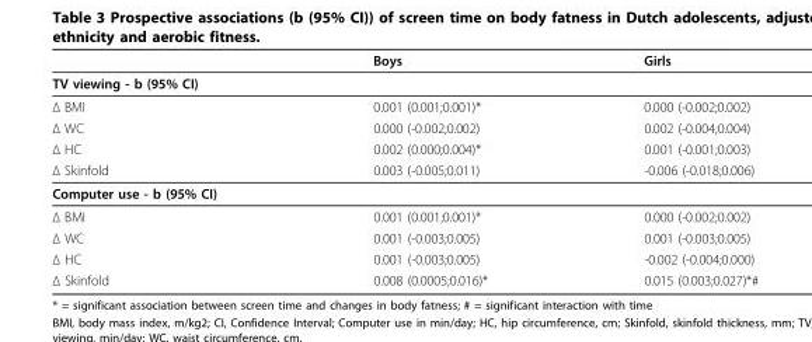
<table><thead><tr><td></td><td>Boys</td><td>Girls</td></tr></thead><tbody><tr><td colspan="3">TV viewing - b (95% CI)</td></tr><tr><td>Δ BMI</td><td>0.001 (0.001;0.001)*</td><td>0.000 (-0.002;0.002)</td></tr><tr><td>Δ WC</td><td>0.000 (-0.002;0.002)</td><td>0.002 (-0.004;0.004)</td></tr><tr><td>Δ HC</td><td>0.002 (0.000;0.004)*</td><td>0.001 (-0.001;0.003)</td></tr><tr><td>Δ Skinfold</td><td>0.003 (-0.005;0.011)</td><td>-0.006 (-0.018;0.006)</td></tr><tr><td colspan="3">Computer use - b (95% CI)</td></tr><tr><td>Δ BMI</td><td>0.001 (0.001;0.001)*</td><td>0.000 (-0.002;0.002)</td></tr><tr><td>Δ WC</td><td>0.001 (-0.003;0.005)</td><td>0.001 (-0.003;0.005)</td></tr><tr><td>Δ HC</td><td>0.001 (-0.003;0.005)</td><td>-0.002 (-0.004;0.000)</td></tr><tr><td>Δ Skinfold</td><td>0.008 (0.0005;0.016)*</td><td>0.015 (0.003;0.027)*#</td></tr></tbody></table>